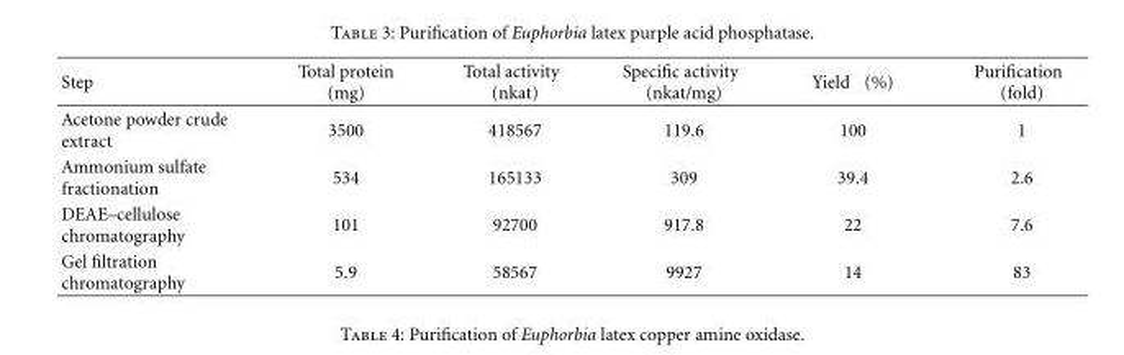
<table><thead><tr><td>Step</td><td>Total protein (mg)</td><td>Total activity (nkat)</td><td>Specific activity (nkat/mg)</td><td>Yield (%)</td><td>Purification (fold)</td></tr></thead><tbody><tr><td>Acetone powder crude extract</td><td>3500</td><td>418567</td><td>119.6</td><td>100</td><td>1</td></tr><tr><td>Ammonium sulfate fractionation</td><td>534</td><td>165133</td><td>309</td><td>39.4</td><td>2.6</td></tr><tr><td>DEAE–cellulose chromatography</td><td>101</td><td>92700</td><td>917.8</td><td>22</td><td>7.6</td></tr><tr><td>Gel filtration chromatography</td><td>5.9</td><td>58567</td><td>9927</td><td>14</td><td>83</td></tr></tbody></table>